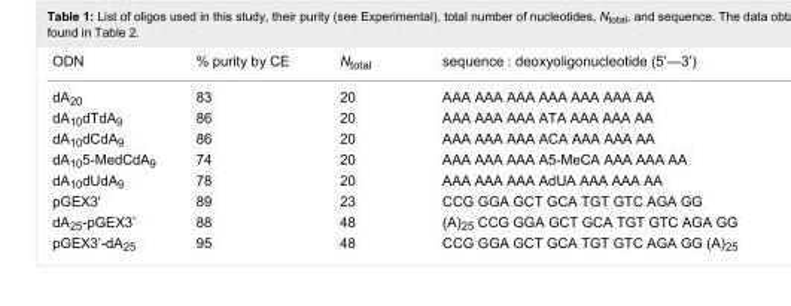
<table><tbody><tr><td>ODN</td><td>% purity by CE</td><td>N<sub>total</sub></td><td>sequence : deoxyoligonucleotide (5’—3’)</td></tr><tr><td>dA<sub>20</sub></td><td>83</td><td>20</td><td>AAA AAA AAA AAA AAA AAA AA</td></tr><tr><td>dA<sub>10</sub>dTdA<sub>9</sub></td><td>86</td><td>20</td><td>AAA AAA AAA ATA AAA AAA AA</td></tr><tr><td>dA<sub>10</sub>dCdA<sub>9</sub></td><td>86</td><td>20</td><td>AAA AAA AAA ACA AAA AAA AA</td></tr><tr><td>dA<sub>10</sub>5-MedCdA<sub>9</sub></td><td>74</td><td>20</td><td>AAA AAA AAA A5-MeCA AAA AAA AA</td></tr><tr><td>dA<sub>10</sub>dUdA<sub>9</sub></td><td>78</td><td>20</td><td>AAA AAA AAA AdUA AAA AAA AA</td></tr><tr><td>pGEX3&#x27;</td><td>89</td><td>23</td><td>CCG GGA GCT GCA TGT GTC AGA GG</td></tr><tr><td>dA<sub>25</sub>-pGEX3’</td><td>88</td><td>48</td><td>(A)<sub>25</sub> CCG GGA GCT GCA TGT GTC AGA GG</td></tr><tr><td>pGEX3’-dA<sub>25</sub></td><td>95</td><td>48</td><td>CCG GGA GCT GCA TGT GTC AGA GG (A)<sub>25</sub></td></tr></tbody></table>